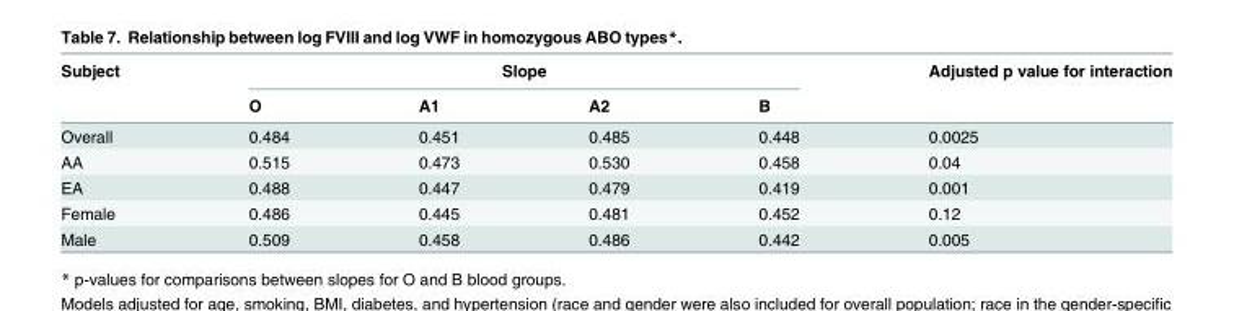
<table><thead><tr><td rowspan="2">Subject</td><td colspan="4">Slope</td><td rowspan="2">Adjusted p value for interaction</td></tr><tr><td>O</td><td>A1</td><td>A2</td><td>B</td></tr></thead><tbody><tr><td>Overall</td><td>0.484</td><td>0.451</td><td>0.485</td><td>0.448</td><td>0.0025</td></tr><tr><td>AA</td><td>0.515</td><td>0.473</td><td>0.530</td><td>0.458</td><td>0.04</td></tr><tr><td>EA</td><td>0.488</td><td>0.447</td><td>0.479</td><td>0.419</td><td>0.001</td></tr><tr><td>Female</td><td>0.486</td><td>0.445</td><td>0.481</td><td>0.452</td><td>0.12</td></tr><tr><td>Male</td><td>0.509</td><td>0.458</td><td>0.486</td><td>0.442</td><td>0.005</td></tr></tbody></table>